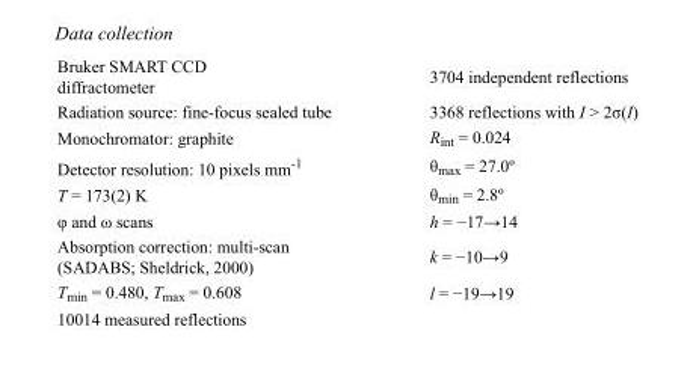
<table><tbody><tr><td>Bruker SMART CCD diffractometer</td><td>3704 independent reflections</td></tr><tr><td>Radiation source: fine-focus sealed tube</td><td>3368 reflections with I &gt; 2σ(I)</td></tr><tr><td>Monochromator: graphite</td><td>R<sub>int</sub> = 0.024</td></tr><tr><td>Detector resolution: 10 pixels mm<sup>-1</sup></td><td>θ<sub>max</sub> = 27.0º</td></tr><tr><td>T = 173(2) K</td><td>θ<sub>min</sub> = 2.8º</td></tr><tr><td>φ and ω scans</td><td>h = −17→14</td></tr><tr><td>Absorption correction: multi-scan (SADABS; Sheldrick, 2000)</td><td>k = −10→9</td></tr><tr><td>T<sub>min</sub> = 0.480, T<sub>max</sub> = 0.608</td><td>l = −19→19</td></tr><tr><td>10014 measured reflections</td><td></td></tr></tbody></table>